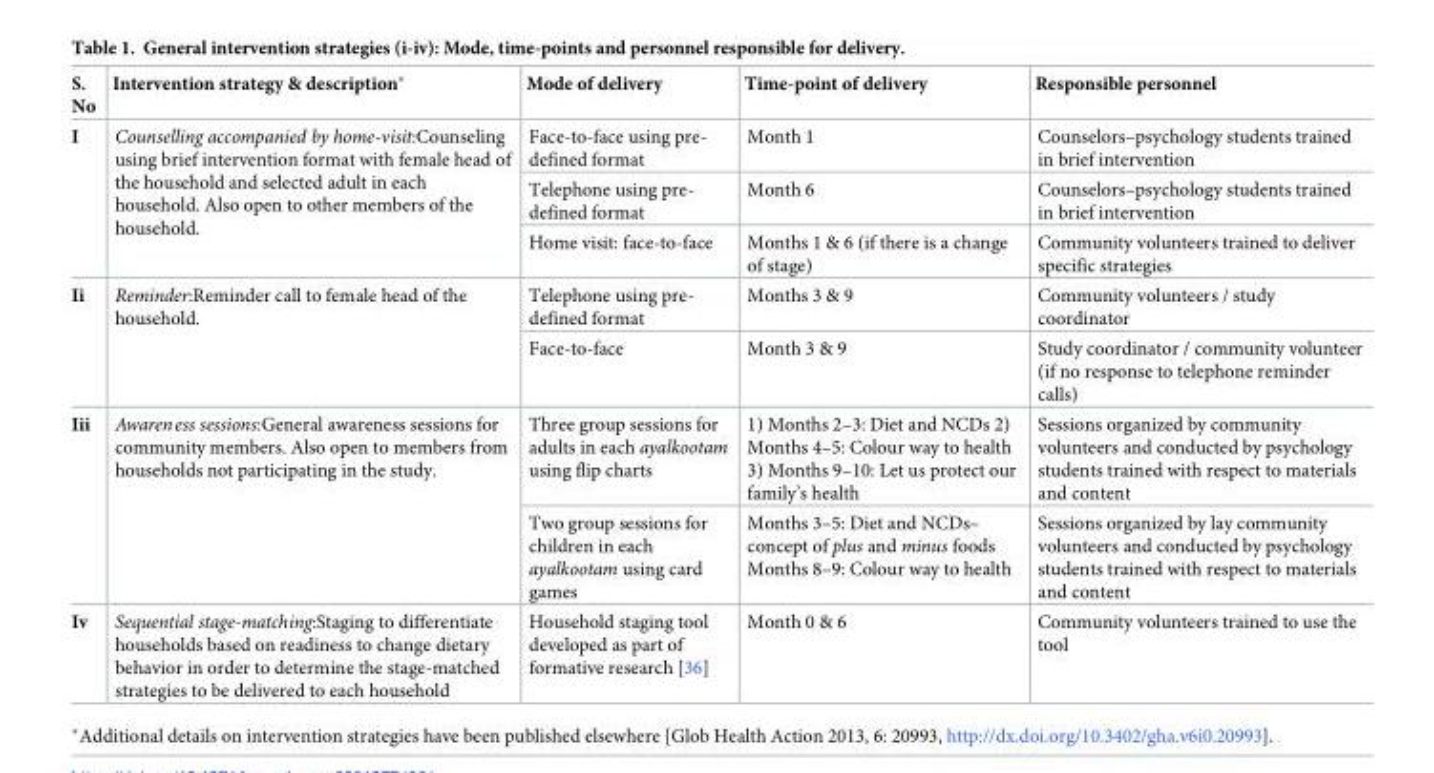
<table><thead><tr><td>S. No</td><td>Intervention strategy &amp; description*</td><td>Mode of delivery</td><td>Time-point of delivery</td><td>Responsible personnel</td></tr></thead><tbody><tr><td rowspan="3">I</td><td rowspan="3">Counselling accompanied by home-visit:Counseling using brief intervention format with female head of the household and selected adult in each household. Also open to other members of the household.</td><td>Face-to-face using pre- defined format</td><td>Month 1</td><td>Counselors–psychology students trained in brief intervention</td></tr><tr><td>Telephone using pre- defined format</td><td>Month 6</td><td>Counselors–psychology students trained in brief intervention</td></tr><tr><td>Home visit: face-to-face</td><td>Months 1 &amp; 6 (if there is a change of stage)</td><td>Community volunteers trained to deliver specific strategies</td></tr><tr><td rowspan="2">Ii</td><td rowspan="2">Reminder:Reminder call to female head of the household.</td><td>Telephone using pre- defined format</td><td>Months 3 &amp; 9</td><td>Community volunteers / study coordinator</td></tr><tr><td>Face-to-face</td><td>Month 3 &amp; 9</td><td>Study coordinator / community volunteer (if no response to telephone reminder calls)</td></tr><tr><td rowspan="2">Iii</td><td rowspan="2">Awareness sessions:General awareness sessions for community members. Also open to members from households not participating in the study.</td><td>Three group sessions for adults in each ayalkootam using flip charts</td><td>1) Months 2–3: Diet and NCDs 2) Months 4–5: Colour way to health 3) Months 9–10: Let us protect our family’s health</td><td>Sessions organized by community volunteers and conducted by psychology students trained with respect to materials and content</td></tr><tr><td>Two group sessions for children in each ayalkootam using card games</td><td>Months 3–5: Diet and NCDs– concept of plus and minus foods Months 8–9: Colour way to health</td><td>Sessions organized by lay community volunteers and conducted by psychology students trained with respect to materials and content</td></tr><tr><td>Iv</td><td>Sequential stage-matching:Staging to differentiate households based on readiness to change dietary behavior in order to determine the stage-matched strategies to be delivered to each household</td><td>Household staging tool developed as part of formative research [36]</td><td>Month 0 &amp; 6</td><td>Community volunteers trained to use the tool</td></tr></tbody></table>